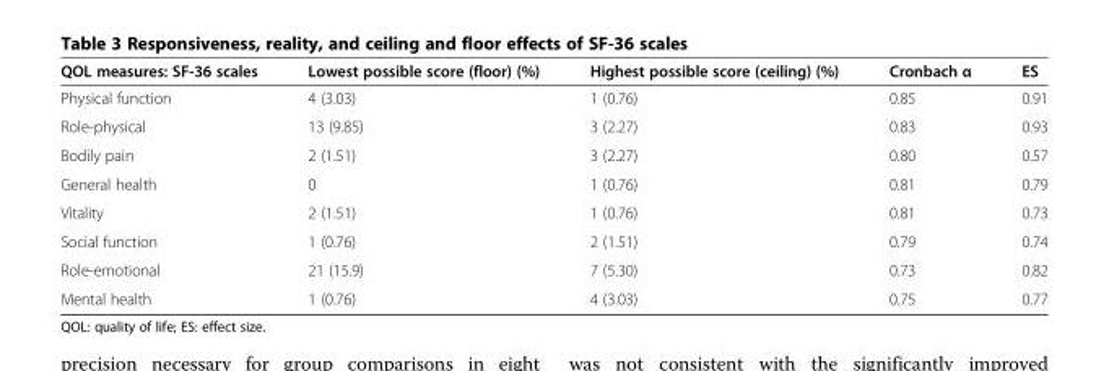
<table><thead><tr><td>QOL measures: SF-36 scales</td><td>Lowest possible score (floor) (%)</td><td>Highest possible score (ceiling) (%)</td><td>Cronbach α</td><td>ES</td></tr></thead><tbody><tr><td>Physical function</td><td>4 (3.03)</td><td>1 (0.76)</td><td>0.85</td><td>0.91</td></tr><tr><td>Role-physical</td><td>13 (9.85)</td><td>3 (2.27)</td><td>0.83</td><td>0.93</td></tr><tr><td>Bodily pain</td><td>2 (1.51)</td><td>3 (2.27)</td><td>0.80</td><td>0.57</td></tr><tr><td>General health</td><td>0</td><td>1 (0.76)</td><td>0.81</td><td>0.79</td></tr><tr><td>Vitality</td><td>2 (1.51)</td><td>1 (0.76)</td><td>0.81</td><td>0.73</td></tr><tr><td>Social function</td><td>1 (0.76)</td><td>2 (1.51)</td><td>0.79</td><td>0.74</td></tr><tr><td>Role-emotional</td><td>21 (15.9)</td><td>7 (5.30)</td><td>0.73</td><td>0.82</td></tr><tr><td>Mental health</td><td>1 (0.76)</td><td>4 (3.03)</td><td>0.75</td><td>0.77</td></tr></tbody></table>